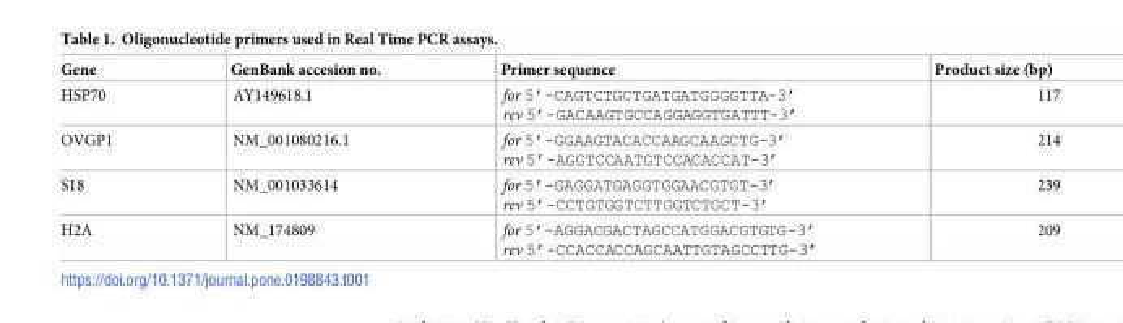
<table><thead><tr><td>Gene</td><td>GenBank accesion no.</td><td>Primer sequence</td><td>Product size (bp)</td></tr></thead><tbody><tr><td>HSP70</td><td>AY149618.1</td><td>for 5’-CAGTCTGCTGATGATGGGGTTA-3’ rev 5’-GACAAGTGCCAGGAGGTGATTT-3’</td><td>117</td></tr><tr><td>OVGP1</td><td>NM_001080216.1</td><td>for 5’-GGAAGTACACCAAGCAAGCTG-3’ rev 5’-AGGTCCAATGTCCACACCAT-3’</td><td>214</td></tr><tr><td>S18</td><td>NM_001033614</td><td>for 5’-GAGGATGAGGTGGAACGTGT-3’ rev 5’-CCTGTGGTCTTGGTCTGCT-3’</td><td>239</td></tr><tr><td>H2A</td><td>NM_174809</td><td>for 5’-AGGACGACTAGCCATGGACGTGTG-3’ rev 5’-CCACCACCAGCAATTGTAGCCTTG-3’</td><td>209</td></tr></tbody></table>